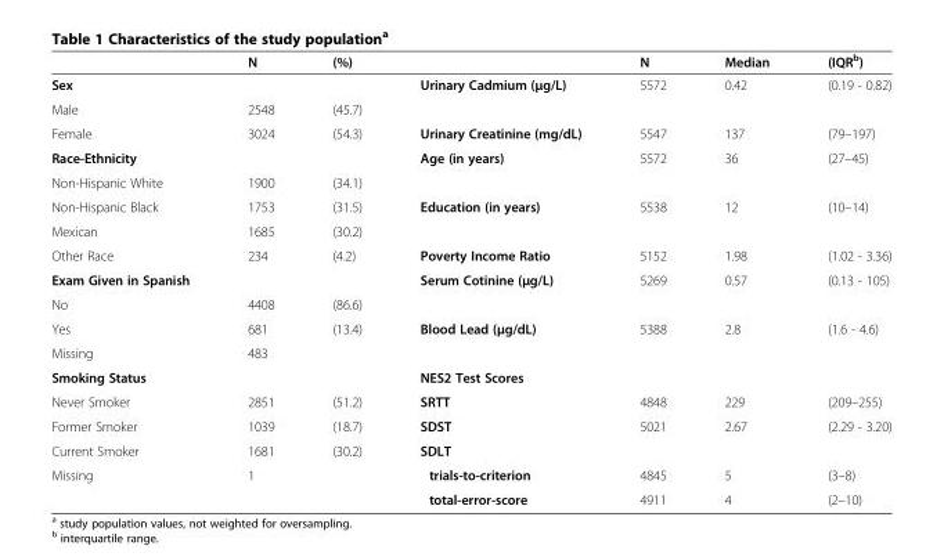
<table><thead><tr><td></td><td>N</td><td>(%)</td><td></td><td>N</td><td>Median</td><td>(IQR<sup>b</sup>)</td></tr></thead><tbody><tr><td>Sex</td><td></td><td></td><td>Urinary Cadmium (μg/L)</td><td>5572</td><td>0.42</td><td>(0.19 - 0.82)</td></tr><tr><td>Male</td><td>2548</td><td>(45.7)</td><td></td><td></td><td></td><td></td></tr><tr><td>Female</td><td>3024</td><td>(54.3)</td><td>Urinary Creatinine (mg/dL)</td><td>5547</td><td>137</td><td>(79–197)</td></tr><tr><td>Race-Ethnicity</td><td></td><td></td><td>Age (in years)</td><td>5572</td><td>36</td><td>(27–45)</td></tr><tr><td>Non-Hispanic White</td><td>1900</td><td>(34.1)</td><td></td><td></td><td></td><td></td></tr><tr><td>Non-Hispanic Black</td><td>1753</td><td>(31.5)</td><td>Education (in years)</td><td>5538</td><td>12</td><td>(10–14)</td></tr><tr><td>Mexican</td><td>1685</td><td>(30.2)</td><td></td><td></td><td></td><td></td></tr><tr><td>Other Race</td><td>234</td><td>(4.2)</td><td>Poverty Income Ratio</td><td>5152</td><td>1.98</td><td>(1.02 - 3.36)</td></tr><tr><td>Exam Given in Spanish</td><td></td><td></td><td>Serum Cotinine (μg/L)</td><td>5269</td><td>0.57</td><td>(0.13 - 105)</td></tr><tr><td>No</td><td>4408</td><td>(86.6)</td><td></td><td></td><td></td><td></td></tr><tr><td>Yes</td><td>681</td><td>(13.4)</td><td>Blood Lead (μg/dL)</td><td>5388</td><td>2.8</td><td>(1.6 - 4.6)</td></tr><tr><td>Missing</td><td>483</td><td></td><td></td><td></td><td></td><td></td></tr><tr><td>Smoking Status</td><td></td><td></td><td>NES2 Test Scores</td><td></td><td></td><td></td></tr><tr><td>Never Smoker</td><td>2851</td><td>(51.2)</td><td>SRTT</td><td>4848</td><td>229</td><td>(209–255)</td></tr><tr><td>Former Smoker</td><td>1039</td><td>(18.7)</td><td>SDST</td><td>5021</td><td>2.67</td><td>(2.29 - 3.20)</td></tr><tr><td>Current Smoker</td><td>1681</td><td>(30.2)</td><td>SDLT</td><td></td><td></td><td></td></tr><tr><td rowspan="2">Missing</td><td>1</td><td></td><td>trials-to-criterion</td><td>4845</td><td>5</td><td>(3–8)</td></tr><tr><td></td><td></td><td>total-error-score</td><td>4911</td><td>4</td><td>(2–10)</td></tr></tbody></table>